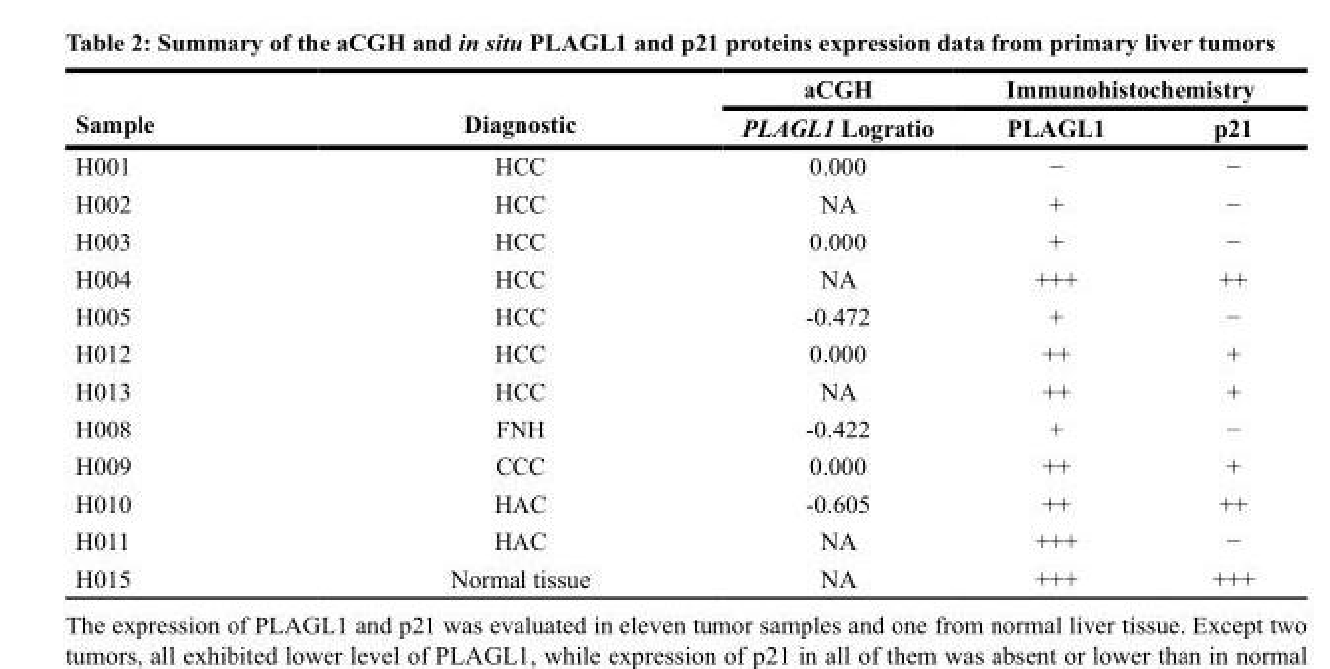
<table><thead><tr><td rowspan="2">Sample</td><td rowspan="2">Diagnostic</td><td rowspan="2">aCGH PLAGL1 Logratio</td><td colspan="2">Immunohistochemistry</td></tr><tr><td>PLAGL1</td><td>p21</td></tr></thead><tbody><tr><td>H001</td><td>HCC</td><td>0.000</td><td>−</td><td>−</td></tr><tr><td>H002</td><td>HCC</td><td>NA</td><td>+</td><td>−</td></tr><tr><td>H003</td><td>HCC</td><td>0.000</td><td>+</td><td>−</td></tr><tr><td>H004</td><td>HCC</td><td>NA</td><td>+++</td><td>++</td></tr><tr><td>H005</td><td>HCC</td><td>-0.472</td><td>+</td><td>−</td></tr><tr><td>H012</td><td>HCC</td><td>0.000</td><td>++</td><td>+</td></tr><tr><td>H013</td><td>HCC</td><td>NA</td><td>++</td><td>+</td></tr><tr><td>H008</td><td>FNH</td><td>-0.422</td><td>+</td><td>−</td></tr><tr><td>H009</td><td>CCC</td><td>0.000</td><td>++</td><td>+</td></tr><tr><td>H010</td><td>HAC</td><td>-0.605</td><td>++</td><td>++</td></tr><tr><td>H011</td><td>HAC</td><td>NA</td><td>+++</td><td>−</td></tr><tr><td>H015</td><td>Normal tissue</td><td>NA</td><td>+++</td><td>+++</td></tr></tbody></table>